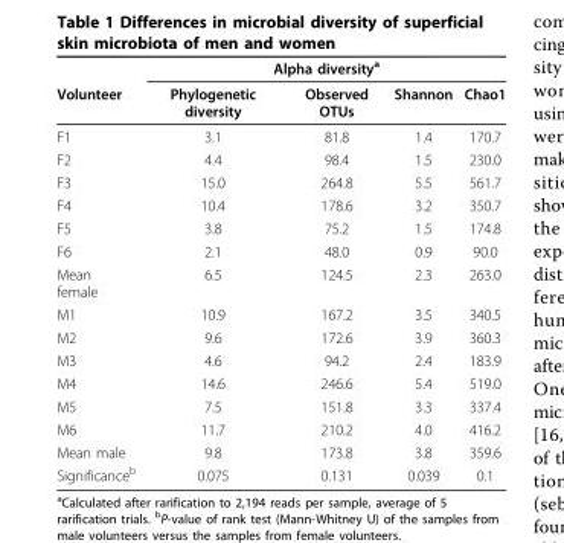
<table><thead><tr><td rowspan="2">Volunteer</td><td colspan="4">Alpha diversity<sup>a</sup></td></tr><tr><td>Phylogenetic diversity</td><td>Observed OTUs</td><td>Shannon</td><td>Chao1</td></tr></thead><tbody><tr><td>F1</td><td>3.1</td><td>81.8</td><td>1.4</td><td>170.7</td></tr><tr><td>F2</td><td>4.4</td><td>98.4</td><td>1.5</td><td>230.0</td></tr><tr><td>F3</td><td>15.0</td><td>264.8</td><td>5.5</td><td>561.7</td></tr><tr><td>F4</td><td>10.4</td><td>178.6</td><td>3.2</td><td>350.7</td></tr><tr><td>F5</td><td>3.8</td><td>75.2</td><td>1.5</td><td>174.8</td></tr><tr><td>F6</td><td>2.1</td><td>48.0</td><td>0.9</td><td>90.0</td></tr><tr><td>Mean female</td><td>6.5</td><td>124.5</td><td>2.3</td><td>263.0</td></tr><tr><td>M1</td><td>10.9</td><td>167.2</td><td>3.5</td><td>340.5</td></tr><tr><td>M2</td><td>9.6</td><td>172.6</td><td>3.9</td><td>360.3</td></tr><tr><td>M3</td><td>4.6</td><td>94.2</td><td>2.4</td><td>183.9</td></tr><tr><td>M4</td><td>14.6</td><td>246.6</td><td>5.4</td><td>519.0</td></tr><tr><td>M5</td><td>7.5</td><td>151.8</td><td>3.3</td><td>337.4</td></tr><tr><td>M6</td><td>11.7</td><td>210.2</td><td>4.0</td><td>416.2</td></tr><tr><td>Mean male</td><td>9.8</td><td>173.8</td><td>3.8</td><td>359.6</td></tr><tr><td>Significance<sup>b</sup></td><td>0.075</td><td>0.131</td><td>0.039</td><td>0.1</td></tr></tbody></table>